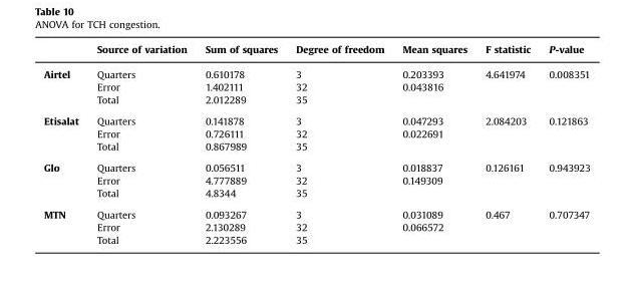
<table><thead><tr><td></td><td>Source of variation</td><td>Sum of squares</td><td>Degree of freedom</td><td>Mean squares</td><td>F statistic</td><td>P-value</td></tr></thead><tbody><tr><td rowspan="3">Airtel</td><td>Quarters</td><td>0.610178</td><td>3</td><td>0.203393</td><td>4.641974</td><td>0.008351</td></tr><tr><td>Error</td><td>1.402111</td><td>32</td><td>0.043816</td><td></td><td></td></tr><tr><td>Total</td><td>2.012289</td><td>35</td><td></td><td></td><td></td></tr><tr><td rowspan="3">Etisalat</td><td>Quarters</td><td>0.141878</td><td>3</td><td>0.047293</td><td>2.084203</td><td>0.121863</td></tr><tr><td>Error</td><td>0.726111</td><td>32</td><td>0.022691</td><td></td><td></td></tr><tr><td>Total</td><td>0.867989</td><td>35</td><td></td><td></td><td></td></tr><tr><td rowspan="3">Glo</td><td>Quarters</td><td>0.056511</td><td>3</td><td>0.018837</td><td>0.126161</td><td>0.943923</td></tr><tr><td>Error</td><td>4.777889</td><td>32</td><td>0.149309</td><td></td><td></td></tr><tr><td>Total</td><td>4.8344</td><td>35</td><td></td><td></td><td></td></tr><tr><td rowspan="3">MTN</td><td>Quarters</td><td>0.093267</td><td>3</td><td>0.031089</td><td>0.467</td><td>0.707347</td></tr><tr><td>Error</td><td>2.130289</td><td>32</td><td>0.066572</td><td></td><td></td></tr><tr><td>Total</td><td>2.223556</td><td>35</td><td></td><td></td><td></td></tr></tbody></table>